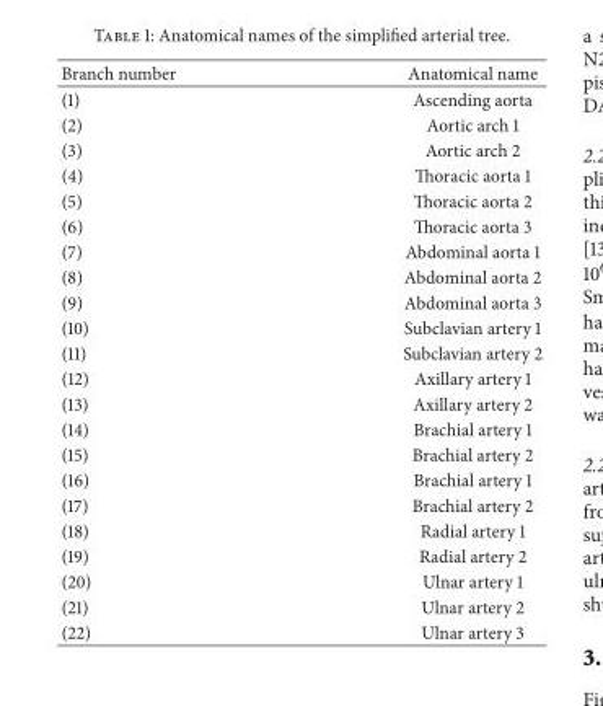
<table><thead><tr><td>Branch number</td><td>Anatomical name</td></tr></thead><tbody><tr><td>(1)</td><td>Ascending aorta</td></tr><tr><td>(2)</td><td>Aortic arch 1</td></tr><tr><td>(3)</td><td>Aortic arch 2</td></tr><tr><td>(4)</td><td>Thoracic aorta 1</td></tr><tr><td>(5)</td><td>Thoracic aorta 2</td></tr><tr><td>(6)</td><td>Thoracic aorta 3</td></tr><tr><td>(7)</td><td>Abdominal aorta 1</td></tr><tr><td>(8)</td><td>Abdominal aorta 2</td></tr><tr><td>(9)</td><td>Abdominal aorta 3</td></tr><tr><td>(10)</td><td>Subclavian artery 1</td></tr><tr><td>(11)</td><td>Subclavian artery 2</td></tr><tr><td>(12)</td><td>Axillary artery 1</td></tr><tr><td>(13)</td><td>Axillary artery 2</td></tr><tr><td>(14)</td><td>Brachial artery 1</td></tr><tr><td>(15)</td><td>Brachial artery 2</td></tr><tr><td>(16)</td><td>Brachial artery 1</td></tr><tr><td>(17)</td><td>Brachial artery 2</td></tr><tr><td>(18)</td><td>Radial artery 1</td></tr><tr><td>(19)</td><td>Radial artery 2</td></tr><tr><td>(20)</td><td>Ulnar artery 1</td></tr><tr><td>(21)</td><td>Ulnar artery 2</td></tr><tr><td>(22)</td><td>Ulnar artery 3</td></tr></tbody></table>